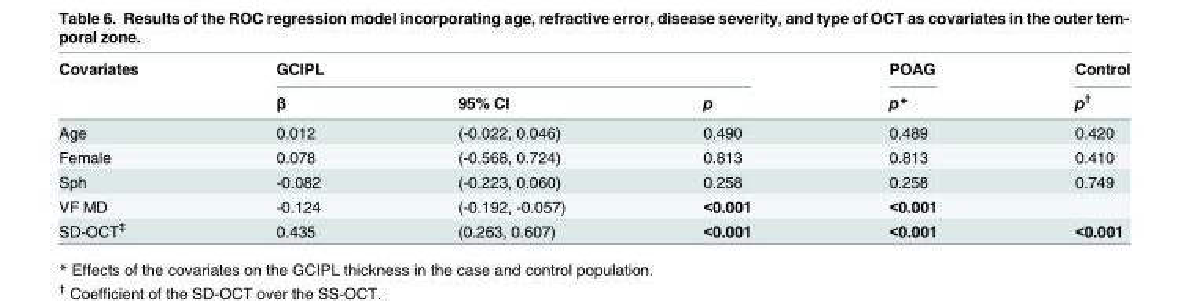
<table><thead><tr><td rowspan="2">Covariates</td><td colspan="3">GCIPL</td><td rowspan="2">POAG p*</td><td rowspan="2">Control p<sup>†</sup></td></tr><tr><td>β</td><td>95% CI</td><td>p</td></tr></thead><tbody><tr><td>Age</td><td>0.012</td><td>(-0.022, 0.046)</td><td>0.490</td><td>0.489</td><td>0.420</td></tr><tr><td>Female</td><td>0.078</td><td>(-0.568, 0.724)</td><td>0.813</td><td>0.813</td><td>0.410</td></tr><tr><td>Sph</td><td>-0.082</td><td>(-0.223, 0.060)</td><td>0.258</td><td>0.258</td><td>0.749</td></tr><tr><td>VF MD</td><td>-0.124</td><td>(-0.192, -0.057)</td><td>&lt;0.001</td><td>&lt;0.001</td><td></td></tr><tr><td>SD-OCT<sup>‡</sup></td><td>0.435</td><td>(0.263, 0.607)</td><td>&lt;0.001</td><td>&lt;0.001</td><td>&lt;0.001</td></tr></tbody></table>